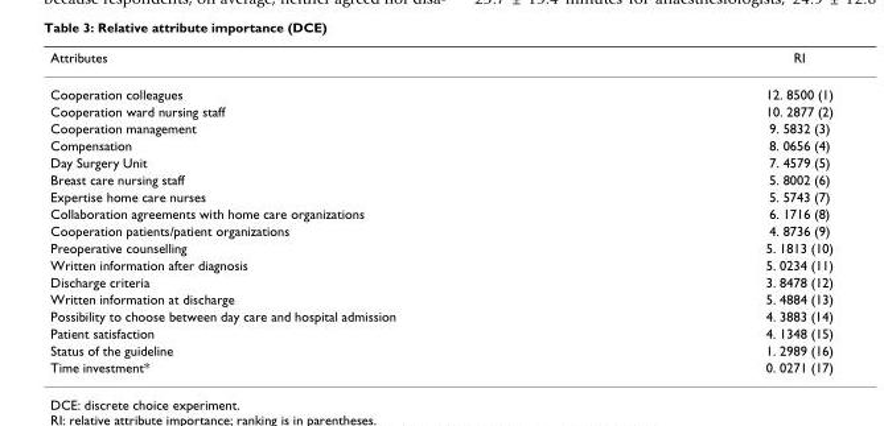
<table><thead><tr><td>Attributes</td><td>RI</td></tr></thead><tbody><tr><td>Cooperation colleagues</td><td>12. 8500 (1)</td></tr><tr><td>Cooperation ward nursing staff</td><td>10. 2877 (2)</td></tr><tr><td>Cooperation management</td><td>9. 5832 (3)</td></tr><tr><td>Compensation</td><td>8. 0656 (4)</td></tr><tr><td>Day Surgery Unit</td><td>7. 4579 (5)</td></tr><tr><td>Breast care nursing staff</td><td>5. 8002 (6)</td></tr><tr><td>Expertise home care nurses</td><td>5. 5743 (7)</td></tr><tr><td>Collaboration agreements with home care organizations</td><td>6. 1716 (8)</td></tr><tr><td>Cooperation patients/patient organizations</td><td>4. 8736 (9)</td></tr><tr><td>Preoperative counselling</td><td>5. 1813 (10)</td></tr><tr><td>Written information after diagnosis</td><td>5. 0234 (11)</td></tr><tr><td>Discharge criteria</td><td>3. 8478 (12)</td></tr><tr><td>Written information at discharge</td><td>5. 4884 (13)</td></tr><tr><td>Possibility to choose between day care and hospital admission</td><td>4. 3883 (14)</td></tr><tr><td>Patient satisfaction</td><td>4. 1348 (15)</td></tr><tr><td>Status of the guideline</td><td>1. 2989 (16)</td></tr><tr><td>Time investment*</td><td>0. 0271 (17)</td></tr></tbody></table>